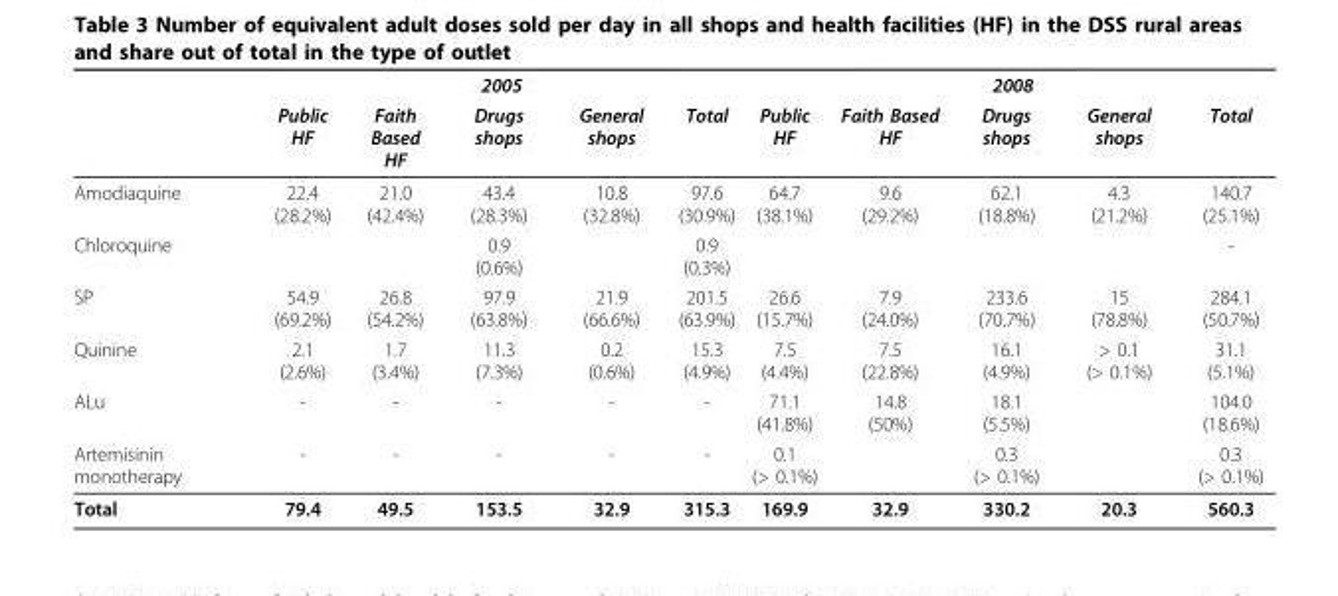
<table><thead><tr><td rowspan="2"></td><td colspan="5">2005</td><td colspan="5">2008</td></tr><tr><td>Public HF</td><td>Faith Based HF</td><td>Drugs shops</td><td>General shops</td><td>Total</td><td>Public HF</td><td>Faith Based HF</td><td>Drugs shops</td><td>General shops</td><td>Total</td></tr></thead><tbody><tr><td>Amodiaquine</td><td>22.4 (28.2%)</td><td>21.0 (42.4%)</td><td>43.4 (28.3%)</td><td>10.8 (32.8%)</td><td>97.6 (30.9%)</td><td>64.7 (38.1%)</td><td>9.6 (29.2%)</td><td>62.1 (18.8%)</td><td>4.3 (21.2%)</td><td>140.7 (25.1%)</td></tr><tr><td>Chloroquine</td><td></td><td></td><td>0.9 (0.6%)</td><td></td><td>0.9 (0.3%)</td><td></td><td></td><td></td><td></td><td>-</td></tr><tr><td>SP</td><td>54.9 (69.2%)</td><td>26.8 (54.2%)</td><td>97.9 (63.8%)</td><td>21.9 (66.6%)</td><td>201.5 (63.9%)</td><td>26.6 (15.7%)</td><td>7.9 (24.0%)</td><td>233.6 (70.7%)</td><td>15 (78.8%)</td><td>284.1 (50.7%)</td></tr><tr><td>Quinine</td><td>2.1 (2.6%)</td><td>1.7 (3.4%)</td><td>11.3 (7.3%)</td><td>0.2 (0.6%)</td><td>15.3 (4.9%)</td><td>7.5 (4.4%)</td><td>7.5 (22.8%)</td><td>16.1 (4.9%)</td><td>&gt; 0.1 (&gt; 0.1%)</td><td>31.1 (5.1%)</td></tr><tr><td>ALu</td><td>-</td><td>-</td><td>-</td><td>-</td><td>-</td><td>71.1 (41.8%)</td><td>14.8 (50%)</td><td>18.1 (5.5%)</td><td></td><td>104.0 (18.6%)</td></tr><tr><td>Artemisinin monotherapy</td><td>-</td><td>-</td><td>-</td><td>-</td><td>-</td><td>0.1 (&gt; 0.1%)</td><td></td><td>0.3 (&gt; 0.1%)</td><td></td><td>0.3 (&gt; 0.1%)</td></tr><tr><td>Total</td><td>79.4</td><td>49.5</td><td>153.5</td><td>32.9</td><td>315.3</td><td>169.9</td><td>32.9</td><td>330.2</td><td>20.3</td><td>560.3</td></tr></tbody></table>